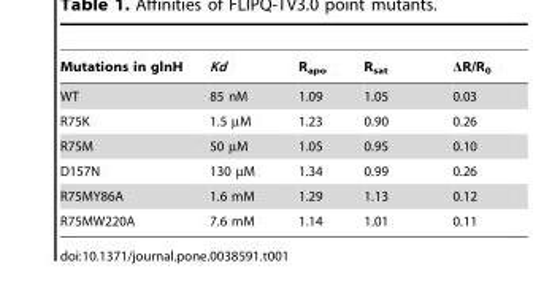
<table><thead><tr><td>Mutations in glnH</td><td>Kd</td><td>R<sub>apo</sub></td><td>R<sub>sat</sub></td><td>ΔR/R<sub>0</sub></td></tr></thead><tbody><tr><td>WT</td><td>85 nM</td><td>1.09</td><td>1.05</td><td>0.03</td></tr><tr><td>R75K</td><td>1.5 µM</td><td>1.23</td><td>0.90</td><td>0.26</td></tr><tr><td>R75M</td><td>50 µM</td><td>1.05</td><td>0.95</td><td>0.10</td></tr><tr><td>D157N</td><td>130 µM</td><td>1.34</td><td>0.99</td><td>0.26</td></tr><tr><td>R75MY86A</td><td>1.6 mM</td><td>1.29</td><td>1.13</td><td>0.12</td></tr><tr><td>R75MW220A</td><td>7.6 mM</td><td>1.14</td><td>1.01</td><td>0.11</td></tr></tbody></table>